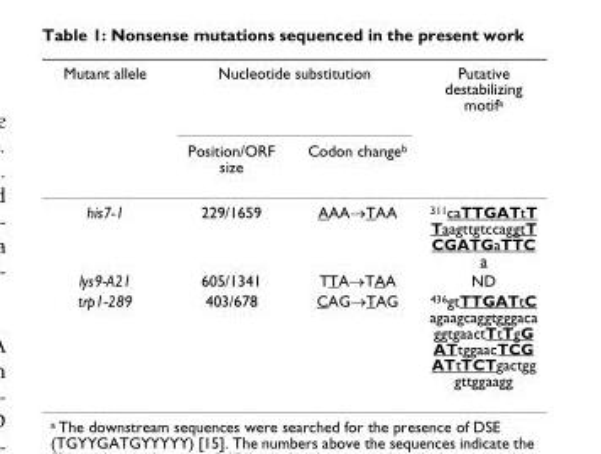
<table><thead><tr><td rowspan="2">Mutant allele</td><td colspan="2">Nucleotide substitution</td><td rowspan="2">Putative destabilizing motif<sup>a</sup></td></tr><tr><td>Position/ORF size</td><td>Codon change<sup>b</sup></td></tr></thead><tbody><tr><td>his7-1</td><td>229/1659</td><td>AAA→TAA</td><td><sup>311</sup>caTTGATtT TaagttgtccaggtT CGATGaTTC a</td></tr><tr><td>lys9-A21</td><td>605/1341</td><td>TTA→TAA</td><td>ND</td></tr><tr><td>trp1-289</td><td>403/678</td><td>CAG→TAG</td><td><sup>436</sup>gtTTGATtC agaagcaggtgggaca ggtgaactTtTgG ATtggaacTCG ATtTCTgactgg gttggaagg</td></tr></tbody></table>